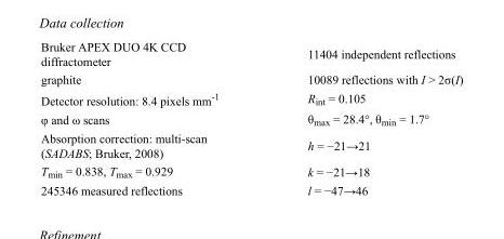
<table><tbody><tr><td>Bruker APEX DUO 4K CCD diffractometer</td><td>11404 independent reflections</td></tr><tr><td>graphite</td><td>10089 reflections with I &gt; 2σ(I)</td></tr><tr><td>Detector resolution: 8.4 pixels mm<sup>-1</sup></td><td>R<sub>int</sub> = 0.105</td></tr><tr><td>φ and ω scans</td><td>θ<sub>max</sub> = 28.4°, θ<sub>min</sub> = 1.7°</td></tr><tr><td>Absorption correction: multi-scan (SADABS; Bruker, 2008)</td><td>h = −21→21</td></tr><tr><td>T<sub>min</sub> = 0.838, T<sub>max</sub> = 0.929</td><td>k = −21→18</td></tr><tr><td>245346 measured reflections</td><td>l = −47→46</td></tr></tbody></table>